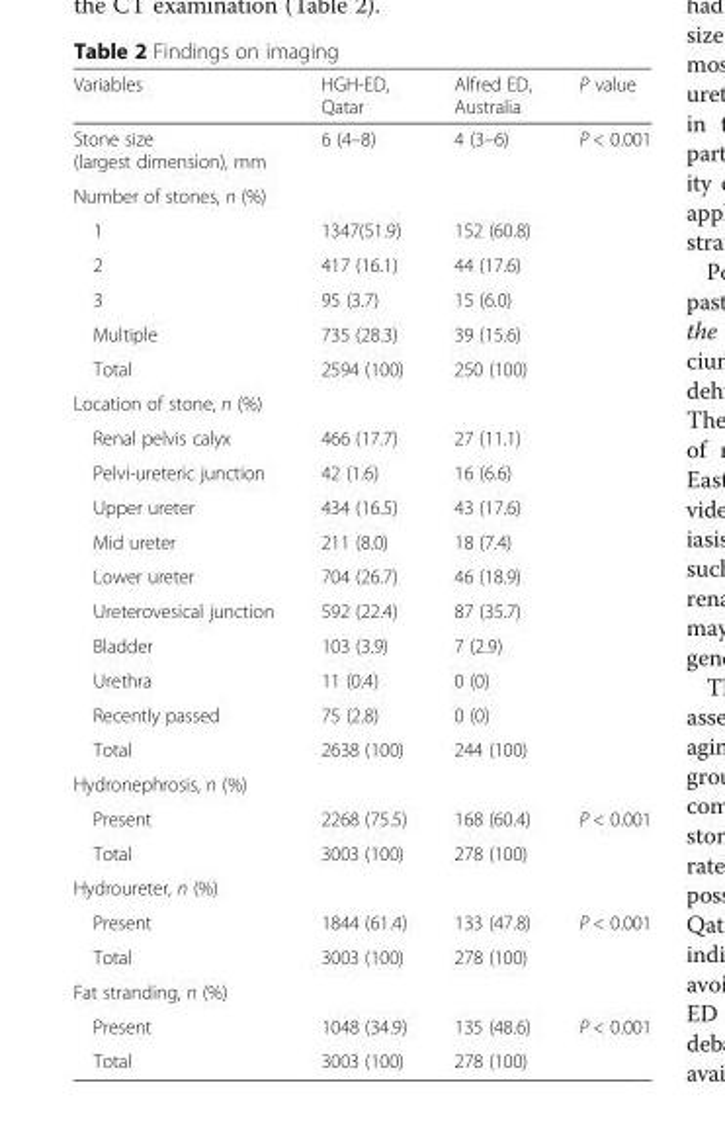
<table><thead><tr><td>Variables</td><td>HGH-ED, Qatar</td><td>Alfred ED, Australia</td><td>P value</td></tr></thead><tbody><tr><td>Stone size (largest dimension), mm</td><td>6 (4–8)</td><td>4 (3–6)</td><td>P &lt; 0.001</td></tr><tr><td colspan="4">Number of stones, n (%)</td></tr><tr><td>1</td><td>1347(51.9)</td><td>152 (60.8)</td><td></td></tr><tr><td>2</td><td>417 (16.1)</td><td>44 (17.6)</td><td></td></tr><tr><td>3</td><td>95 (3.7)</td><td>15 (6.0)</td><td></td></tr><tr><td>Multiple</td><td>735 (28.3)</td><td>39 (15.6)</td><td></td></tr><tr><td>Total</td><td>2594 (100)</td><td>250 (100)</td><td></td></tr><tr><td colspan="4">Location of stone, n (%)</td></tr><tr><td>Renal pelvis calyx</td><td>466 (17.7)</td><td>27 (11.1)</td><td></td></tr><tr><td>Pelvi-ureteric junction</td><td>42 (1.6)</td><td>16 (6.6)</td><td></td></tr><tr><td>Upper ureter</td><td>434 (16.5)</td><td>43 (17.6)</td><td></td></tr><tr><td>Mid ureter</td><td>211 (8.0)</td><td>18 (7.4)</td><td></td></tr><tr><td>Lower ureter</td><td>704 (26.7)</td><td>46 (18.9)</td><td></td></tr><tr><td>Ureterovesical junction</td><td>592 (22.4)</td><td>87 (35.7)</td><td></td></tr><tr><td>Bladder</td><td>103 (3.9)</td><td>7 (2.9)</td><td></td></tr><tr><td>Urethra</td><td>11 (0.4)</td><td>0 (0)</td><td></td></tr><tr><td>Recently passed</td><td>75 (2.8)</td><td>0 (0)</td><td></td></tr><tr><td>Total</td><td>2638 (100)</td><td>244 (100)</td><td></td></tr><tr><td colspan="4">Hydronephrosis, n (%)</td></tr><tr><td>Present</td><td>2268 (75.5)</td><td>168 (60.4)</td><td>P &lt; 0.001</td></tr><tr><td>Total</td><td>3003 (100)</td><td>278 (100)</td><td></td></tr><tr><td colspan="4">Hydroureter, n (%)</td></tr><tr><td>Present</td><td>1844 (61.4)</td><td>133 (47.8)</td><td>P &lt; 0.001</td></tr><tr><td>Total</td><td>3003 (100)</td><td>278 (100)</td><td></td></tr><tr><td colspan="4">Fat stranding, n (%)</td></tr><tr><td>Present</td><td>1048 (34.9)</td><td>135 (48.6)</td><td>P &lt; 0.001</td></tr><tr><td>Total</td><td>3003 (100)</td><td>278 (100)</td><td></td></tr></tbody></table>